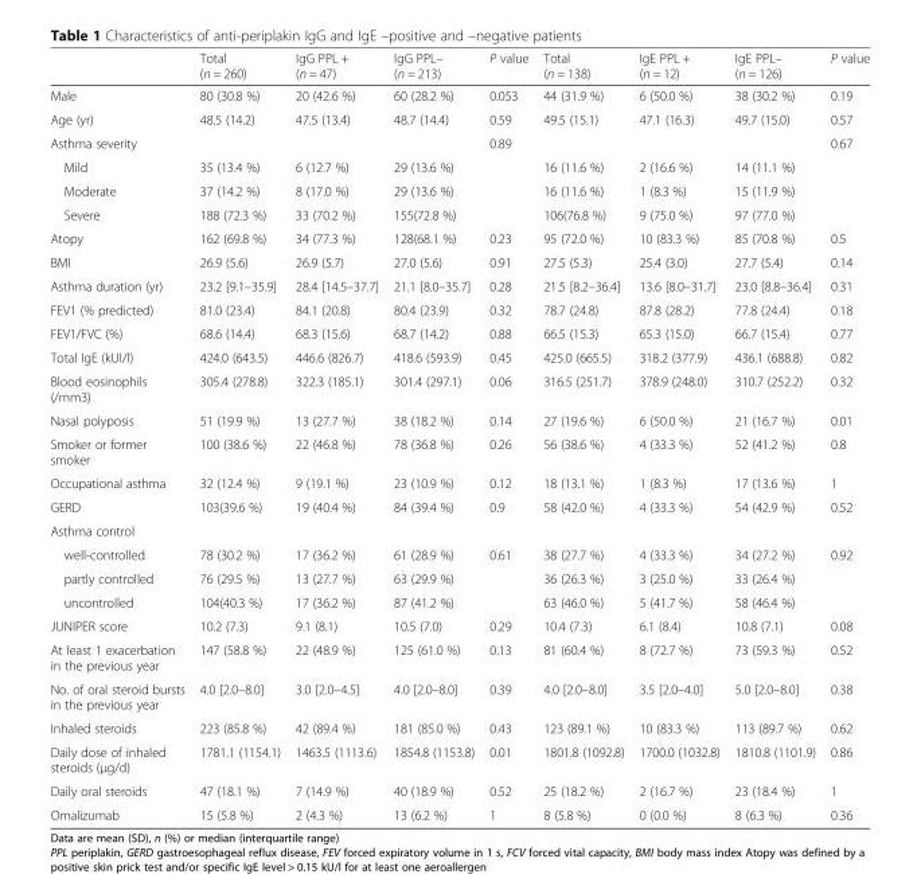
<table><thead><tr><td></td><td>Total (n = 260)</td><td>IgG PPL + (n = 47)</td><td>IgG PPL– (n = 213)</td><td>P value</td><td>Total (n = 138)</td><td>IgE PPL + (n = 12)</td><td>IgE PPL– (n = 126)</td><td>P value</td></tr></thead><tbody><tr><td>Male</td><td>80 (30.8 %)</td><td>20 (42.6 %)</td><td>60 (28.2 %)</td><td>0.053</td><td>44 (31.9 %)</td><td>6 (50.0 %)</td><td>38 (30.2 %)</td><td>0.19</td></tr><tr><td>Age (yr)</td><td>48.5 (14.2)</td><td>47.5 (13.4)</td><td>48.7 (14.4)</td><td>0.59</td><td>49.5 (15.1)</td><td>47.1 (16.3)</td><td>49.7 (15.0)</td><td>0.57</td></tr><tr><td>Asthma severity</td><td></td><td></td><td></td><td>0.89</td><td></td><td></td><td></td><td>0.67</td></tr><tr><td>Mild</td><td>35 (13.4 %)</td><td>6 (12.7 %)</td><td>29 (13.6 %)</td><td></td><td>16 (11.6 %)</td><td>2 (16.6 %)</td><td>14 (11.1 %)</td><td></td></tr><tr><td>Moderate</td><td>37 (14.2 %)</td><td>8 (17.0 %)</td><td>29 (13.6 %)</td><td></td><td>16 (11.6 %)</td><td>1 (8.3 %)</td><td>15 (11.9 %)</td><td></td></tr><tr><td>Severe</td><td>188 (72.3 %)</td><td>33 (70.2 %)</td><td>155(72.8 %)</td><td></td><td>106(76.8 %)</td><td>9 (75.0 %)</td><td>97 (77.0 %)</td><td></td></tr><tr><td>Atopy</td><td>162 (69.8 %)</td><td>34 (77.3 %)</td><td>128(68.1 %)</td><td>0.23</td><td>95 (72.0 %)</td><td>10 (83.3 %)</td><td>85 (70.8 %)</td><td>0.5</td></tr><tr><td>BMI</td><td>26.9 (5.6)</td><td>26.9 (5.7)</td><td>27.0 (5.6)</td><td>0.91</td><td>27.5 (5.3)</td><td>25.4 (3.0)</td><td>27.7 (5.4)</td><td>0.14</td></tr><tr><td>Asthma duration (yr)</td><td>23.2 [9.1–35.9]</td><td>28.4 [14.5–37.7]</td><td>21.1 [8.0–35.7]</td><td>0.28</td><td>21.5 [8.2–36.4]</td><td>13.6 [8.0–31.7]</td><td>23.0 [8.8–36.4]</td><td>0.31</td></tr><tr><td>FEV1 (% predicted)</td><td>81.0 (23.4)</td><td>84.1 (20.8)</td><td>80.4 (23.9)</td><td>0.32</td><td>78.7 (24.8)</td><td>87.8 (28.2)</td><td>77.8 (24.4)</td><td>0.18</td></tr><tr><td>FEV1/FVC (%)</td><td>68.6 (14.4)</td><td>68.3 (15.6)</td><td>68.7 (14.2)</td><td>0.88</td><td>66.5 (15.3)</td><td>65.3 (15.0)</td><td>66.7 (15.4)</td><td>0.77</td></tr><tr><td>Total IgE (kUI/l)</td><td>424.0 (643.5)</td><td>446.6 (826.7)</td><td>418.6 (593.9)</td><td>0.45</td><td>425.0 (665.5)</td><td>318.2 (377.9)</td><td>436.1 (688.8)</td><td>0.82</td></tr><tr><td>Blood eosinophils (/mm3)</td><td>305.4 (278.8)</td><td>322.3 (185.1)</td><td>301.4 (297.1)</td><td>0.06</td><td>316.5 (251.7)</td><td>378.9 (248.0)</td><td>310.7 (252.2)</td><td>0.32</td></tr><tr><td>Nasal polyposis</td><td>51 (19.9 %)</td><td>13 (27.7 %)</td><td>38 (18.2 %)</td><td>0.14</td><td>27 (19.6 %)</td><td>6 (50.0 %)</td><td>21 (16.7 %)</td><td>0.01</td></tr><tr><td>Smoker or former smoker</td><td>100 (38.6 %)</td><td>22 (46.8 %)</td><td>78 (36.8 %)</td><td>0.26</td><td>56 (38.6 %)</td><td>4 (33.3 %)</td><td>52 (41.2 %)</td><td>0.8</td></tr><tr><td>Occupational asthma</td><td>32 (12.4 %)</td><td>9 (19.1 %)</td><td>23 (10.9 %)</td><td>0.12</td><td>18 (13.1 %)</td><td>1 (8.3 %)</td><td>17 (13.6 %)</td><td>1</td></tr><tr><td>GERD</td><td>103(39.6 %)</td><td>19 (40.4 %)</td><td>84 (39.4 %)</td><td>0.9</td><td>58 (42.0 %)</td><td>4 (33.3 %)</td><td>54 (42.9 %)</td><td>0.52</td></tr><tr><td colspan="9">Asthma control</td></tr><tr><td>well-controlled</td><td>78 (30.2 %)</td><td>17 (36.2 %)</td><td>61 (28.9 %)</td><td>0.61</td><td>38 (27.7 %)</td><td>4 (33.3 %)</td><td>34 (27.2 %)</td><td>0.92</td></tr><tr><td>partly controlled</td><td>76 (29.5 %)</td><td>13 (27.7 %)</td><td>63 (29.9 %)</td><td></td><td>36 (26.3 %)</td><td>3 (25.0 %)</td><td>33 (26.4 %)</td><td></td></tr><tr><td>uncontrolled</td><td>104(40.3 %)</td><td>17 (36.2 %)</td><td>87 (41.2 %)</td><td></td><td>63 (46.0 %)</td><td>5 (41.7 %)</td><td>58 (46.4 %)</td><td></td></tr><tr><td>JUNIPER score</td><td>10.2 (7.3)</td><td>9.1 (8.1)</td><td>10.5 (7.0)</td><td>0.29</td><td>10.4 (7.3)</td><td>6.1 (8.4)</td><td>10.8 (7.1)</td><td>0.08</td></tr><tr><td>At least 1 exacerbation in the previous year</td><td>147 (58.8 %)</td><td>22 (48.9 %)</td><td>125 (61.0 %)</td><td>0.13</td><td>81 (60.4 %)</td><td>8 (72.7 %)</td><td>73 (59.3 %)</td><td>0.52</td></tr><tr><td>No. of oral steroid bursts in the previous year</td><td>4.0 [2.0–8.0]</td><td>3.0 [2.0–4.5]</td><td>4.0 [2.0–8.0]</td><td>0.39</td><td>4.0 [2.0–8.0]</td><td>3.5 [2.0–4.0]</td><td>5.0 [2.0–8.0]</td><td>0.38</td></tr><tr><td>Inhaled steroids</td><td>223 (85.8 %)</td><td>42 (89.4 %)</td><td>181 (85.0 %)</td><td>0.43</td><td>123 (89.1 %)</td><td>10 (83.3 %)</td><td>113 (89.7 %)</td><td>0.62</td></tr><tr><td>Daily dose of inhaled steroids (μg/d)</td><td>1781.1 (1154.1)</td><td>1463.5 (1113.6)</td><td>1854.8 (1153.8)</td><td>0.01</td><td>1801.8 (1092.8)</td><td>1700.0 (1032.8)</td><td>1810.8 (1101.9)</td><td>0.86</td></tr><tr><td>Daily oral steroids</td><td>47 (18.1 %)</td><td>7 (14.9 %)</td><td>40 (18.9 %)</td><td>0.52</td><td>25 (18.2 %)</td><td>2 (16.7 %)</td><td>23 (18.4 %)</td><td>1</td></tr><tr><td>Omalizumab</td><td>15 (5.8 %)</td><td>2 (4.3 %)</td><td>13 (6.2 %)</td><td>1</td><td>8 (5.8 %)</td><td>0 (0.0 %)</td><td>8 (6.3 %)</td><td>0.36</td></tr></tbody></table>